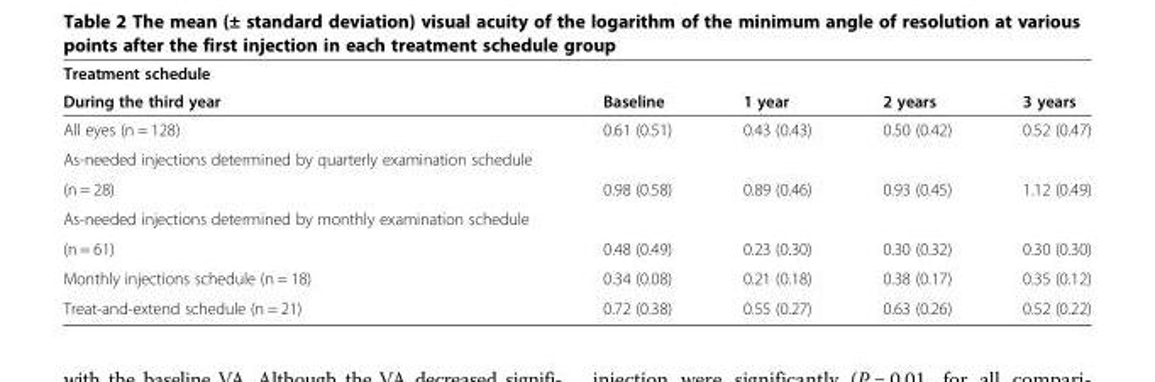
<table><thead><tr><td rowspan="2">Treatment schedule During the third year</td><td rowspan="2">Baseline</td><td rowspan="2">1 year</td><td rowspan="2">2 years</td><td rowspan="2">3 years</td></tr><tr></tr></thead><tbody><tr><td>All eyes (n = 128)</td><td>0.61 (0.51)</td><td>0.43 (0.43)</td><td>0.50 (0.42)</td><td>0.52 (0.47)</td></tr><tr><td colspan="5">As-needed injections determined by quarterly examination schedule</td></tr><tr><td>(n = 28)</td><td>0.98 (0.58)</td><td>0.89 (0.46)</td><td>0.93 (0.45)</td><td>1.12 (0.49)</td></tr><tr><td colspan="5">As-needed injections determined by monthly examination schedule</td></tr><tr><td>(n = 61)</td><td>0.48 (0.49)</td><td>0.23 (0.30)</td><td>0.30 (0.32)</td><td>0.30 (0.30)</td></tr><tr><td>Monthly injections schedule (n = 18)</td><td>0.34 (0.08)</td><td>0.21 (0.18)</td><td>0.38 (0.17)</td><td>0.35 (0.12)</td></tr><tr><td>Treat-and-extend schedule (n = 21)</td><td>0.72 (0.38)</td><td>0.55 (0.27)</td><td>0.63 (0.26)</td><td>0.52 (0.22)</td></tr></tbody></table>